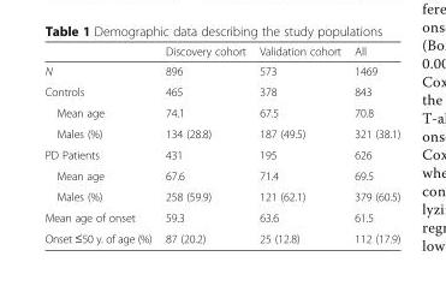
<table><thead><tr><td></td><td>Discovery cohort</td><td>Validation cohort</td><td>All</td></tr></thead><tbody><tr><td>N</td><td>896</td><td>573</td><td>1469</td></tr><tr><td>Controls</td><td>465</td><td>378</td><td>843</td></tr><tr><td>Mean age</td><td>74.1</td><td>67.5</td><td>70.8</td></tr><tr><td>Males (%)</td><td>134 (28.8)</td><td>187 (49.5)</td><td>321 (38.1)</td></tr><tr><td>PD Patients</td><td>431</td><td>195</td><td>626</td></tr><tr><td>Mean age</td><td>67.6</td><td>71.4</td><td>69.5</td></tr><tr><td>Males (%)</td><td>258 (59.9)</td><td>121 (62.1)</td><td>379 (60.5)</td></tr><tr><td>Mean age of onset</td><td>59.3</td><td>63.6</td><td>61.5</td></tr><tr><td>Onset ≤50 y. of age (%)</td><td>87 (20.2)</td><td>25 (12.8)</td><td>112 (17.9)</td></tr></tbody></table>